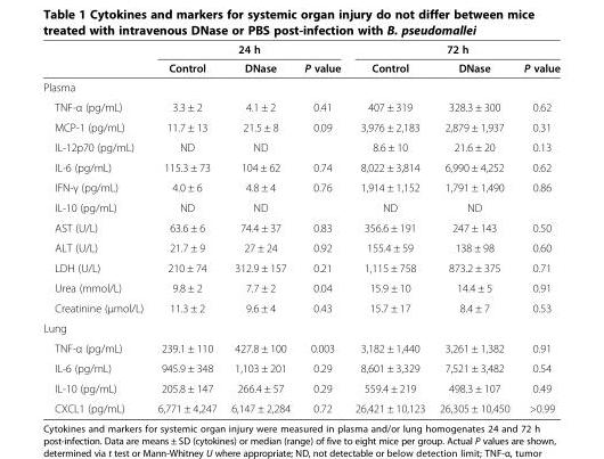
<table><thead><tr><td rowspan="2"></td><td colspan="3">24 h</td><td colspan="3">72 h</td></tr><tr><td>Control</td><td>DNase</td><td>P value</td><td>Control</td><td>DNase</td><td>P value</td></tr></thead><tbody><tr><td colspan="7">Plasma</td></tr><tr><td>TNF-α (pg/mL)</td><td>3.3 ± 2</td><td>4.1 ± 2</td><td>0.41</td><td>407 ± 319</td><td>328.3 ± 300</td><td>0.62</td></tr><tr><td>MCP-1 (pg/mL)</td><td>11.7 ± 13</td><td>21.5 ± 8</td><td>0.09</td><td>3,976 ± 2,183</td><td>2,879 ± 1,937</td><td>0.31</td></tr><tr><td>IL-12p70 (pg/mL)</td><td>ND</td><td>ND</td><td></td><td>8.6 ± 10</td><td>21.6 ± 20</td><td>0.13</td></tr><tr><td>IL-6 (pg/mL)</td><td>115.3 ± 73</td><td>104 ± 62</td><td>0.74</td><td>8,022 ± 3,814</td><td>6,990 ± 4,252</td><td>0.62</td></tr><tr><td>IFN-γ (pg/mL)</td><td>4.0 ± 6</td><td>4.8 ± 4</td><td>0.76</td><td>1,914 ± 1,152</td><td>1,791 ± 1,490</td><td>0.86</td></tr><tr><td>IL-10 (pg/mL)</td><td>ND</td><td>ND</td><td></td><td>ND</td><td>ND</td><td></td></tr><tr><td>AST (U/L)</td><td>63.6 ± 6</td><td>74.4 ± 37</td><td>0.83</td><td>356.6 ± 191</td><td>247 ± 143</td><td>0.50</td></tr><tr><td>ALT (U/L)</td><td>21.7 ± 9</td><td>27 ± 24</td><td>0.92</td><td>155.4 ± 59</td><td>138 ± 98</td><td>0.60</td></tr><tr><td>LDH (U/L)</td><td>210 ± 74</td><td>312.9 ± 157</td><td>0.21</td><td>1,115 ± 758</td><td>873.2 ± 375</td><td>0.71</td></tr><tr><td>Urea (mmol/L)</td><td>9.8 ± 2</td><td>7.7 ± 2</td><td>0.04</td><td>15.9 ± 10</td><td>14.4 ± 5</td><td>0.91</td></tr><tr><td>Creatinine (μmol/L)</td><td>11.3 ± 2</td><td>9.6 ± 4</td><td>0.43</td><td>15.7 ± 17</td><td>8.4 ± 7</td><td>0.53</td></tr><tr><td colspan="7">Lung</td></tr><tr><td>TNF-α (pg/mL)</td><td>239.1 ± 110</td><td>427.8 ± 100</td><td>0.003</td><td>3,182 ± 1,440</td><td>3,261 ± 1,382</td><td>0.91</td></tr><tr><td>IL-6 (pg/mL)</td><td>945.9 ± 348</td><td>1,103 ± 201</td><td>0.29</td><td>8,601 ± 3,329</td><td>7,521 ± 3,482</td><td>0.54</td></tr><tr><td>IL-10 (pg/mL)</td><td>205.8 ± 147</td><td>266.4 ± 57</td><td>0.29</td><td>559.4 ± 219</td><td>498.3 ± 107</td><td>0.49</td></tr><tr><td>CXCL1 (pg/mL)</td><td>6,771 ± 4,247</td><td>6,147 ± 2,284</td><td>0.72</td><td>26,421 ± 10,123</td><td>26,305 ± 10,450</td><td>&gt;0.99</td></tr></tbody></table>